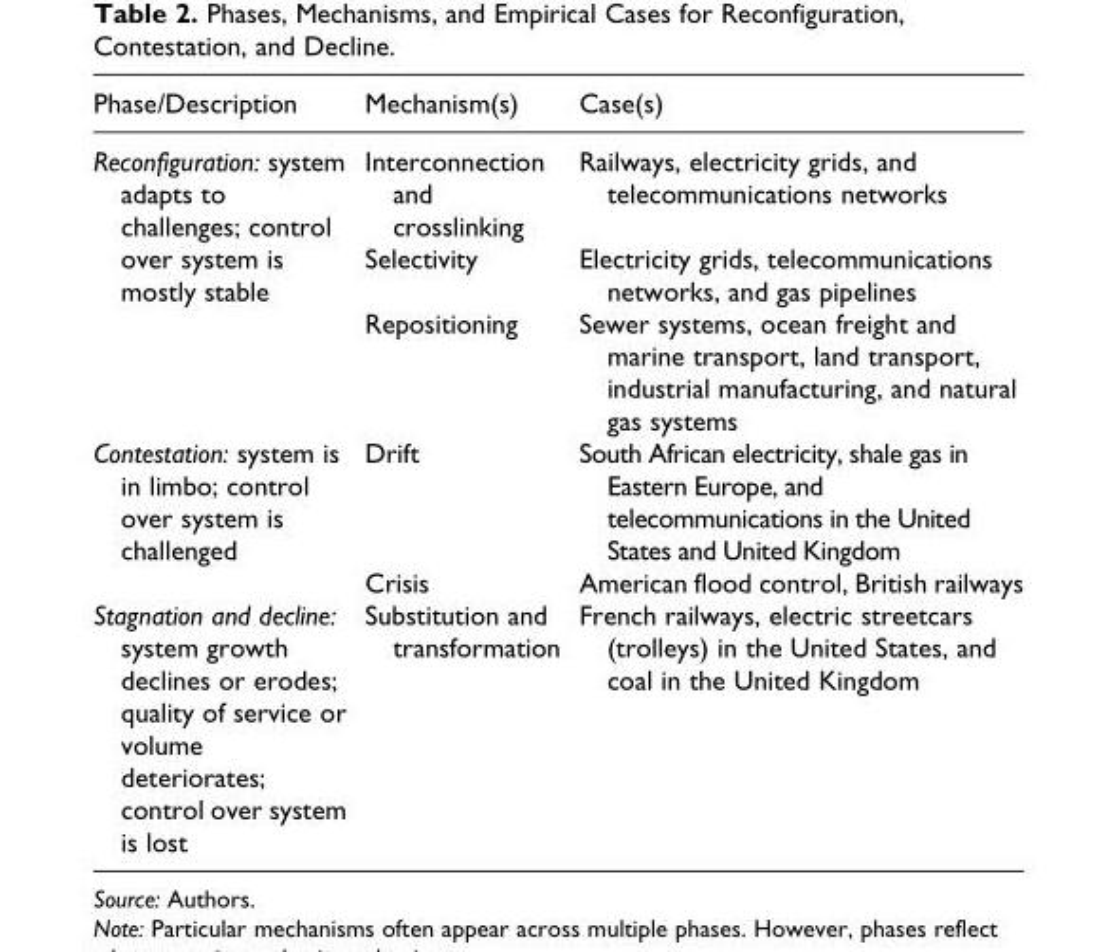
<table><thead><tr><td>Phase/Description</td><td>Mechanism(s)</td><td>Case(s)</td></tr></thead><tbody><tr><td rowspan="3">Reconfiguration: system adapts to challenges; control over system is mostly stable</td><td>Interconnection and crosslinking</td><td>Railways, electricity grids, and telecommunications networks</td></tr><tr><td>Selectivity</td><td>Electricity grids, telecommunications networks, and gas pipelines</td></tr><tr><td>Repositioning</td><td>Sewer systems, ocean freight and marine transport, land transport, industrial manufacturing, and natural gas systems</td></tr><tr><td rowspan="2">Contestation: system is in limbo; control over system is challenged</td><td>Drift</td><td>South African electricity, shale gas in Eastern Europe, and telecommunications in the United States and United Kingdom</td></tr><tr><td>Crisis</td><td>American flood control, British railways</td></tr><tr><td>Stagnation and decline: system growth declines or erodes; quality of service or volume deteriorates; control over system is lost</td><td>Substitution and transformation</td><td>French railways, electric streetcars (trolleys) in the United States, and coal in the United Kingdom</td></tr></tbody></table>